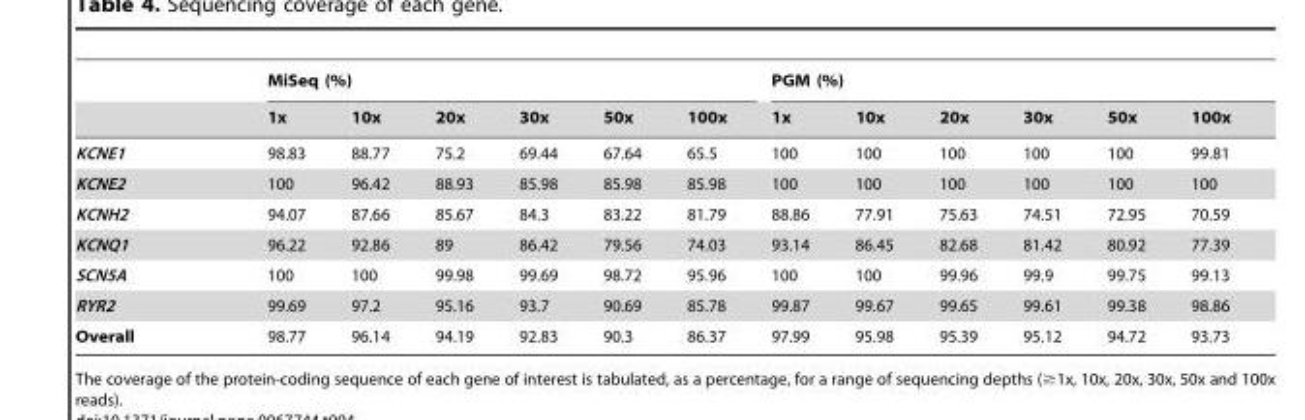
<table><thead><tr><td rowspan="2"></td><td colspan="6">MiSeq (%)</td><td colspan="6">PGM (%)</td></tr><tr><td>1x</td><td>10x</td><td>20x</td><td>30x</td><td>50x</td><td>100x</td><td>1x</td><td>10x</td><td>20x</td><td>30x</td><td>50x</td><td>100x</td></tr></thead><tbody><tr><td>KCNE1</td><td>98.83</td><td>88.77</td><td>75.2</td><td>69.44</td><td>67.64</td><td>65.5</td><td>100</td><td>100</td><td>100</td><td>100</td><td>100</td><td>99.81</td></tr><tr><td>KCNE2</td><td>100</td><td>96.42</td><td>88.93</td><td>85.98</td><td>85.98</td><td>85.98</td><td>100</td><td>100</td><td>100</td><td>100</td><td>100</td><td>100</td></tr><tr><td>KCNH2</td><td>94.07</td><td>87.66</td><td>85.67</td><td>84.3</td><td>83.22</td><td>81.79</td><td>88.86</td><td>77.91</td><td>75.63</td><td>74.51</td><td>72.95</td><td>70.59</td></tr><tr><td>KCNQ1</td><td>96.22</td><td>92.86</td><td>89</td><td>86.42</td><td>79.56</td><td>74.03</td><td>93.14</td><td>86.45</td><td>82.68</td><td>81.42</td><td>80.92</td><td>77.39</td></tr><tr><td>SCN5A</td><td>100</td><td>100</td><td>99.98</td><td>99.69</td><td>98.72</td><td>95.96</td><td>100</td><td>100</td><td>99.96</td><td>99.9</td><td>99.75</td><td>99.13</td></tr><tr><td>RYR2</td><td>99.69</td><td>97.2</td><td>95.16</td><td>93.7</td><td>90.69</td><td>85.78</td><td>99.87</td><td>99.67</td><td>99.65</td><td>99.61</td><td>99.38</td><td>98.86</td></tr><tr><td>Overall</td><td>98.77</td><td>96.14</td><td>94.19</td><td>92.83</td><td>90.3</td><td>86.37</td><td>97.99</td><td>95.98</td><td>95.39</td><td>95.12</td><td>94.72</td><td>93.73</td></tr></tbody></table>